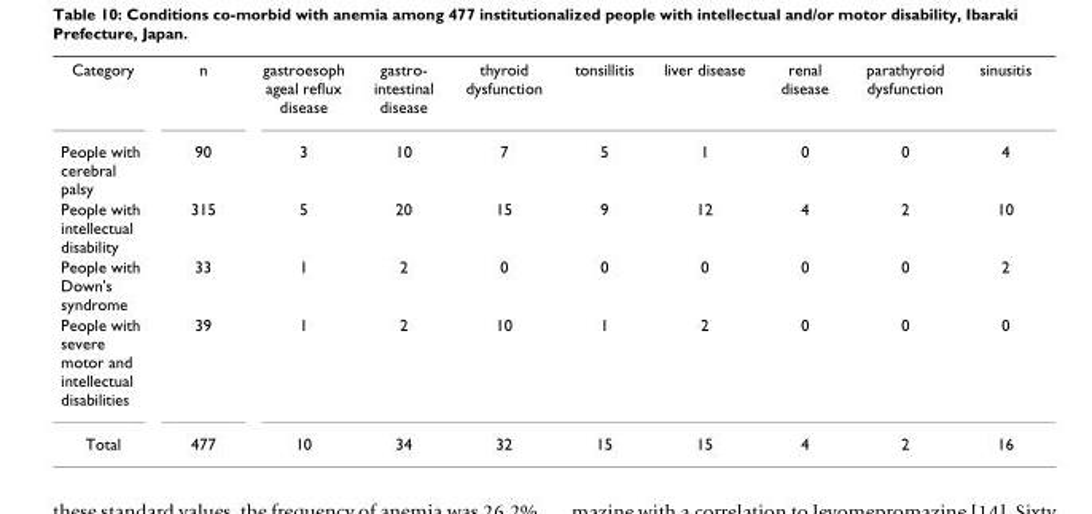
<table><tbody><tr><td>Category</td><td>n</td><td>gastroesoph ageal reflux disease</td><td>gastro- intestinal disease</td><td>thyroid dysfunction</td><td>tonsillitis</td><td>liver disease</td><td>renal disease</td><td>parathyroid dysfunction</td><td>sinusitis</td></tr><tr><td>People with cerebral palsy</td><td>90</td><td>3</td><td>10</td><td>7</td><td>5</td><td>1</td><td>0</td><td>0</td><td>4</td></tr><tr><td>People with intellectual disability</td><td>315</td><td>5</td><td>20</td><td>15</td><td>9</td><td>12</td><td>4</td><td>2</td><td>10</td></tr><tr><td>People with Down&#x27;s syndrome</td><td>33</td><td>1</td><td>2</td><td>0</td><td>0</td><td>0</td><td>0</td><td>0</td><td>2</td></tr><tr><td>People with severe motor and intellectual disabilities</td><td>39</td><td>1</td><td>2</td><td>10</td><td>1</td><td>2</td><td>0</td><td>0</td><td>0</td></tr><tr><td>Total</td><td>477</td><td>10</td><td>34</td><td>32</td><td>15</td><td>15</td><td>4</td><td>2</td><td>16</td></tr></tbody></table>